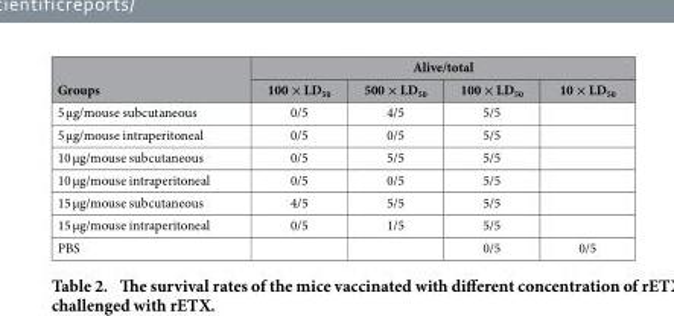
<table><thead><tr><td rowspan="2">Groups</td><td colspan="4">Alive/total</td></tr><tr><td>100 × LD<sub>50</sub></td><td>500 × LD<sub>50</sub></td><td>100 × LD<sub>50</sub></td><td>10 × LD<sub>50</sub></td></tr></thead><tbody><tr><td>5 μg/mouse subcutaneous</td><td>0/5</td><td>4/5</td><td>5/5</td><td></td></tr><tr><td>5 μg/mouse intraperitoneal</td><td>0/5</td><td>0/5</td><td>5/5</td><td></td></tr><tr><td>10 μg/mouse subcutaneous</td><td>0/5</td><td>5/5</td><td>5/5</td><td></td></tr><tr><td>10 μg/mouse intraperitoneal</td><td>0/5</td><td>0/5</td><td>5/5</td><td></td></tr><tr><td>15 μg/mouse subcutaneous</td><td>4/5</td><td>5/5</td><td>5/5</td><td></td></tr><tr><td>15 μg/mouse intraperitoneal</td><td>0/5</td><td>1/5</td><td>5/5</td><td></td></tr><tr><td>PBS</td><td></td><td></td><td>0/5</td><td>0/5</td></tr></tbody></table>